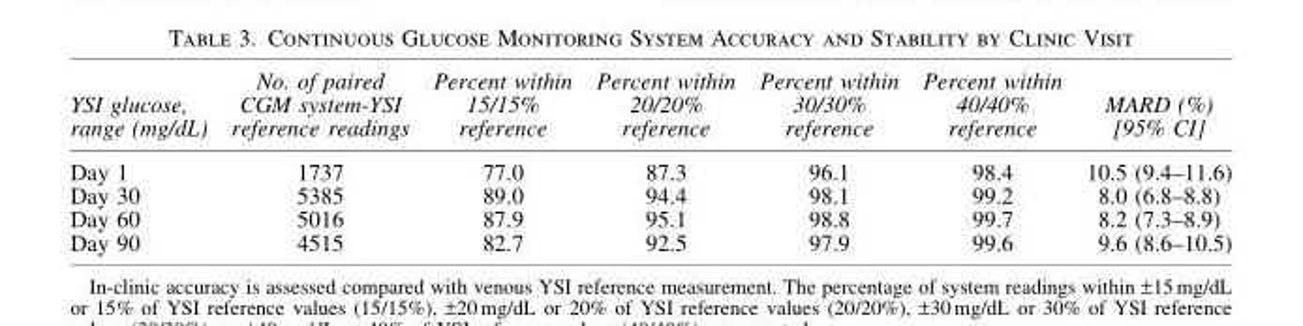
<table><thead><tr><td>YSI glucose, range (mg/dL)</td><td>No. of paired CGM system-YSI reference readings</td><td>Percent within 15/15% reference</td><td>Percent within 20/20% reference</td><td>Percent within 30/30% reference</td><td>Percent within 40/40% reference</td><td>MARD (%) [95% CI]</td></tr></thead><tbody><tr><td>Day 1</td><td>1737</td><td>77.0</td><td>87.3</td><td>96.1</td><td>98.4</td><td>10.5 (9.4–11.6)</td></tr><tr><td>Day 30</td><td>5385</td><td>89.0</td><td>94.4</td><td>98.1</td><td>99.2</td><td>8.0 (6.8–8.8)</td></tr><tr><td>Day 60</td><td>5016</td><td>87.9</td><td>95.1</td><td>98.8</td><td>99.7</td><td>8.2 (7.3–8.9)</td></tr><tr><td>Day 90</td><td>4515</td><td>82.7</td><td>92.5</td><td>97.9</td><td>99.6</td><td>9.6 (8.6–10.5)</td></tr></tbody></table>